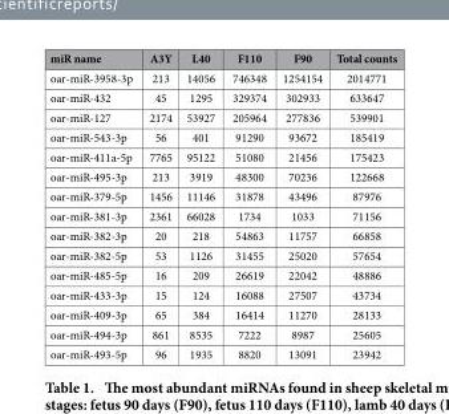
<table><thead><tr><td>miR name</td><td>A3Y</td><td>L40</td><td>F110</td><td>F90</td><td>Total counts</td></tr></thead><tbody><tr><td>oar-miR-3958-3p</td><td>213</td><td>14056</td><td>746348</td><td>1254154</td><td>2014771</td></tr><tr><td>oar-miR-432</td><td>45</td><td>1295</td><td>329374</td><td>302933</td><td>633647</td></tr><tr><td>oar-miR-127</td><td>2174</td><td>53927</td><td>205964</td><td>277836</td><td>539901</td></tr><tr><td>oar-miR-543-3p</td><td>56</td><td>401</td><td>91290</td><td>93672</td><td>185419</td></tr><tr><td>oar-miR-411a-5p</td><td>7765</td><td>95122</td><td>51080</td><td>21456</td><td>175423</td></tr><tr><td>oar-miR-495-3p</td><td>213</td><td>3919</td><td>48300</td><td>70236</td><td>122668</td></tr><tr><td>oar-miR-379-5p</td><td>1456</td><td>11146</td><td>31878</td><td>43496</td><td>87976</td></tr><tr><td>oar-miR-381-3p</td><td>2361</td><td>66028</td><td>1734</td><td>1033</td><td>71156</td></tr><tr><td>oar-miR-382-3p</td><td>20</td><td>218</td><td>54863</td><td>11757</td><td>66858</td></tr><tr><td>oar-miR-382-5p</td><td>53</td><td>1126</td><td>31455</td><td>25020</td><td>57654</td></tr><tr><td>oar-miR-485-5p</td><td>16</td><td>209</td><td>26619</td><td>22042</td><td>48886</td></tr><tr><td>oar-miR-433-3p</td><td>15</td><td>124</td><td>16088</td><td>27507</td><td>43734</td></tr><tr><td>oar-miR-409-3p</td><td>65</td><td>384</td><td>16414</td><td>11270</td><td>28133</td></tr><tr><td>oar-miR-494-3p</td><td>861</td><td>8535</td><td>7222</td><td>8987</td><td>25605</td></tr><tr><td>oar-miR-493-5p</td><td>96</td><td>1935</td><td>8820</td><td>13091</td><td>23942</td></tr></tbody></table>